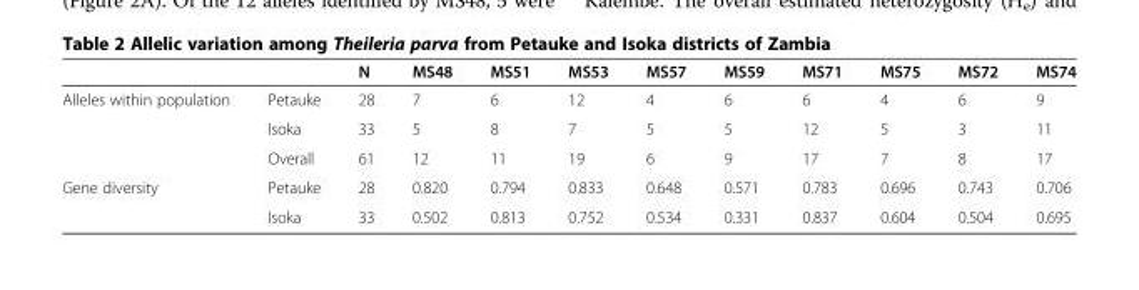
<table><thead><tr><td></td><td></td><td>N</td><td>MS48</td><td>MS51</td><td>MS53</td><td>MS57</td><td>MS59</td><td>MS71</td><td>MS75</td><td>MS72</td><td>MS74</td></tr></thead><tbody><tr><td rowspan="3">Alleles within population</td><td>Petauke</td><td>28</td><td>7</td><td>6</td><td>12</td><td>4</td><td>6</td><td>6</td><td>4</td><td>6</td><td>9</td></tr><tr><td>Isoka</td><td>33</td><td>5</td><td>8</td><td>7</td><td>5</td><td>5</td><td>12</td><td>5</td><td>3</td><td>11</td></tr><tr><td>Overall</td><td>61</td><td>12</td><td>11</td><td>19</td><td>6</td><td>9</td><td>17</td><td>7</td><td>8</td><td>17</td></tr><tr><td rowspan="2">Gene diversity</td><td>Petauke</td><td>28</td><td>0.820</td><td>0.794</td><td>0.833</td><td>0.648</td><td>0.571</td><td>0.783</td><td>0.696</td><td>0.743</td><td>0.706</td></tr><tr><td>Isoka</td><td>33</td><td>0.502</td><td>0.813</td><td>0.752</td><td>0.534</td><td>0.331</td><td>0.837</td><td>0.604</td><td>0.504</td><td>0.695</td></tr></tbody></table>